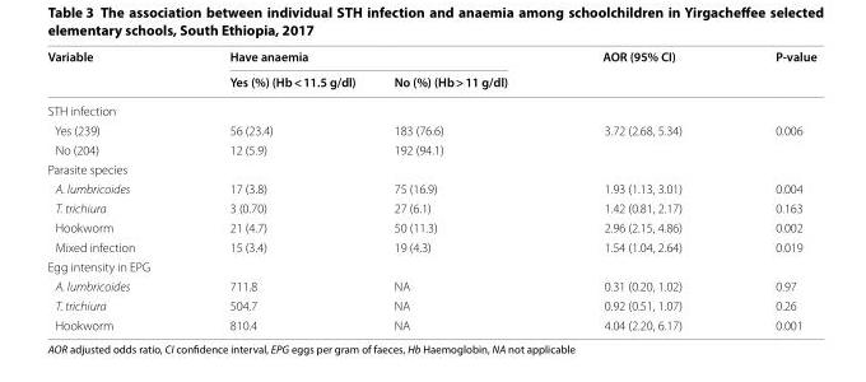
<table><thead><tr><td rowspan="2">Variable</td><td colspan="2">Have anaemia</td><td rowspan="2">AOR (95% CI)</td><td rowspan="2">P-value</td></tr><tr><td>Yes (%) (Hb &lt; 11.5 g/dl)</td><td>No (%) (Hb &gt; 11 g/dl)</td></tr></thead><tbody><tr><td colspan="5">STH infection</td></tr><tr><td>Yes (239)</td><td>56 (23.4)</td><td>183 (76.6)</td><td>3.72 (2.68, 5.34)</td><td>0.006</td></tr><tr><td>No (204)</td><td>12 (5.9)</td><td>192 (94.1)</td><td></td><td></td></tr><tr><td colspan="5">Parasite species</td></tr><tr><td>A. lumbricoides</td><td>17 (3.8)</td><td>75 (16.9)</td><td>1.93 (1.13, 3.01)</td><td>0.004</td></tr><tr><td>T. trichiura</td><td>3 (0.70)</td><td>27 (6.1)</td><td>1.42 (0.81, 2.17)</td><td>0.163</td></tr><tr><td>Hookworm</td><td>21 (4.7)</td><td>50 (11.3)</td><td>2.96 (2.15, 4.86)</td><td>0.002</td></tr><tr><td>Mixed infection</td><td>15 (3.4)</td><td>19 (4.3)</td><td>1.54 (1.04, 2.64)</td><td>0.019</td></tr><tr><td colspan="5">Egg intensity in EPG</td></tr><tr><td>A. lumbricoides</td><td>711.8</td><td>NA</td><td>0.31 (0.20, 1.02)</td><td>0.97</td></tr><tr><td>T. trichiura</td><td>504.7</td><td>NA</td><td>0.92 (0.51, 1.07)</td><td>0.26</td></tr><tr><td>Hookworm</td><td>810.4</td><td>NA</td><td>4.04 (2.20, 6.17)</td><td>0.001</td></tr></tbody></table>